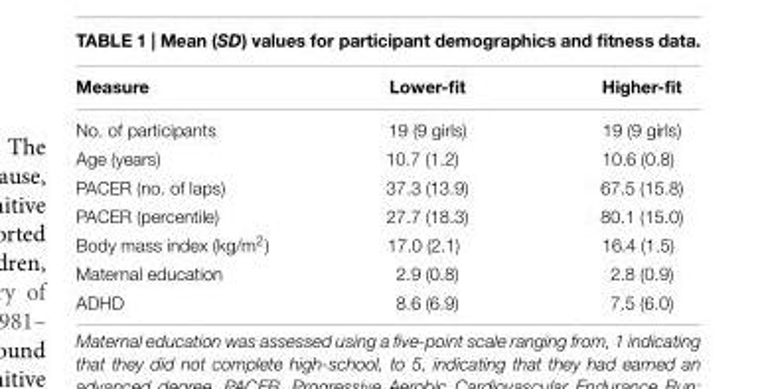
<table><thead><tr><td>Measure</td><td>Lower-fit</td><td>Higher-fit</td></tr></thead><tbody><tr><td>No. of participants</td><td>19 (9 girls)</td><td>19 (9 girls)</td></tr><tr><td>Age (years)</td><td>10.7 (1.2)</td><td>10.6 (0.8)</td></tr><tr><td>PACER (no. of laps)</td><td>37.3 (13.9)</td><td>67.5 (15.8)</td></tr><tr><td>PACER (percentile)</td><td>27.7 (18.3)</td><td>80.1 (15.0)</td></tr><tr><td>Body mass index (kg/m<sup>2</sup>)</td><td>17.0 (2.1)</td><td>16.4 (1.5)</td></tr><tr><td>Maternal education</td><td>2.9 (0.8)</td><td>2.8 (0.9)</td></tr><tr><td>ADHD</td><td>8.6 (6.9)</td><td>7.5 (6.0)</td></tr></tbody></table>